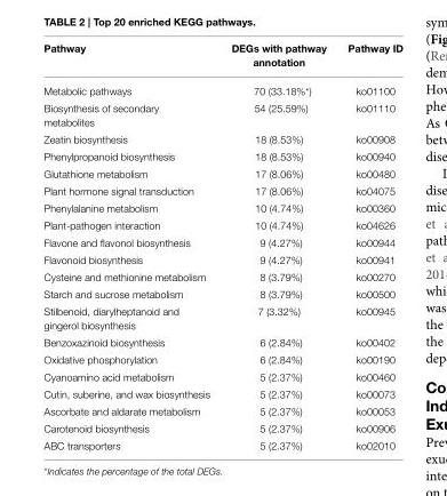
<table><thead><tr><td>Pathway</td><td>DEGs with pathway annotation</td><td>Pathway ID</td></tr></thead><tbody><tr><td>Metabolic pathways</td><td>70 (33.18%*)</td><td>ko01100</td></tr><tr><td>Biosynthesis of secondary metabolites</td><td>54 (25.59%)</td><td>ko01110</td></tr><tr><td>Zeatin biosynthesis</td><td>18 (8.53%)</td><td>ko00908</td></tr><tr><td>Phenylpropanoid biosynthesis</td><td>18 (8.53%)</td><td>ko00940</td></tr><tr><td>Glutathione metabolism</td><td>17 (8.06%)</td><td>ko00480</td></tr><tr><td>Plant hormone signal transduction</td><td>17 (8.06%)</td><td>ko04075</td></tr><tr><td>Phenylalanine metabolism</td><td>10 (4.74%)</td><td>ko00360</td></tr><tr><td>Plant-pathogen interaction</td><td>10 (4.74%)</td><td>ko04626</td></tr><tr><td>Flavone and flavonol biosynthesis</td><td>9 (4.27%)</td><td>ko00944</td></tr><tr><td>Flavonoid biosynthesis</td><td>9 (4.27%)</td><td>ko00941</td></tr><tr><td>Cysteine and methionine metabolism</td><td>8 (3.79%)</td><td>ko00270</td></tr><tr><td>Starch and sucrose metabolism</td><td>8 (3.79%)</td><td>ko00500</td></tr><tr><td>Stilbenoid, diarylheptanoid and gingerol biosynthesis</td><td>7 (3.32%)</td><td>ko00945</td></tr><tr><td>Benzoxazinoid biosynthesis</td><td>6 (2.84%)</td><td>ko00402</td></tr><tr><td>Oxidative phosphorylation</td><td>6 (2.84%)</td><td>ko00190</td></tr><tr><td>Cyanoamino acid metabolism</td><td>5 (2.37%)</td><td>ko00460</td></tr><tr><td>Cutin, suberine, and wax biosynthesis</td><td>5 (2.37%)</td><td>ko00073</td></tr><tr><td>Ascorbate and aldarate metabolism</td><td>5 (2.37%)</td><td>ko00053</td></tr><tr><td>Carotenoid biosynthesis</td><td>5 (2.37%)</td><td>ko00906</td></tr><tr><td>ABC transporters</td><td>5 (2.37%)</td><td>ko02010</td></tr></tbody></table>